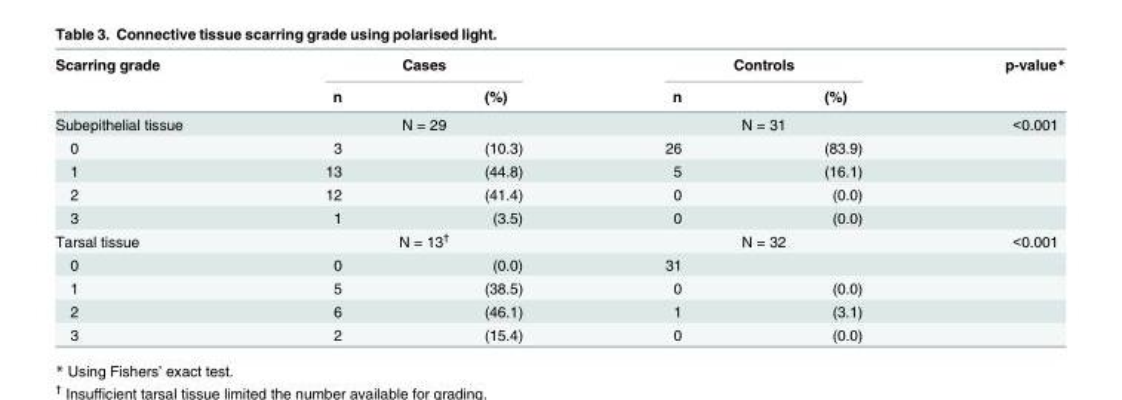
<table><thead><tr><td rowspan="2">Scarring grade</td><td colspan="2">Cases</td><td colspan="2">Controls</td><td rowspan="2">p-value*</td></tr><tr><td>n</td><td>(%)</td><td>n</td><td>(%)</td></tr></thead><tbody><tr><td>Subepithelial tissue</td><td colspan="2">N = 29</td><td colspan="2">N = 31</td><td>&lt;0.001</td></tr><tr><td>0</td><td>3</td><td>(10.3)</td><td>26</td><td>(83.9)</td><td></td></tr><tr><td>1</td><td>13</td><td>(44.8)</td><td>5</td><td>(16.1)</td><td></td></tr><tr><td>2</td><td>12</td><td>(41.4)</td><td>0</td><td>(0.0)</td><td></td></tr><tr><td>3</td><td>1</td><td>(3.5)</td><td>0</td><td>(0.0)</td><td></td></tr><tr><td>Tarsal tissue</td><td colspan="2">N = 13<sup>†</sup></td><td colspan="2">N = 32</td><td>&lt;0.001</td></tr><tr><td>0</td><td>0</td><td>(0.0)</td><td>31</td><td></td><td></td></tr><tr><td>1</td><td>5</td><td>(38.5)</td><td>0</td><td>(0.0)</td><td></td></tr><tr><td>2</td><td>6</td><td>(46.1)</td><td>1</td><td>(3.1)</td><td></td></tr><tr><td>3</td><td>2</td><td>(15.4)</td><td>0</td><td>(0.0)</td><td></td></tr></tbody></table>